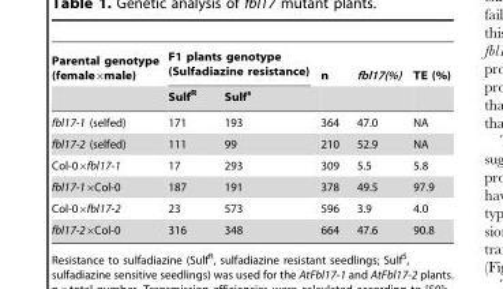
<table><thead><tr><td rowspan="2">Parental genotype (female×male)</td><td colspan="2">F1 plants genotype (Sulfadiazine resistance)</td><td rowspan="2">n</td><td rowspan="2">fbl17(%)</td><td rowspan="2">TE (%)</td></tr><tr><td>Sulf<sup>R</sup></td><td>Sulf<sup>s</sup></td></tr></thead><tbody><tr><td>fbl17-1 (selfed)</td><td>171</td><td>193</td><td>364</td><td>47.0</td><td>NA</td></tr><tr><td>fbl17-2 (selfed)</td><td>111</td><td>99</td><td>210</td><td>52.9</td><td>NA</td></tr><tr><td>Col-0×fbl17-1</td><td>17</td><td>293</td><td>309</td><td>5.5</td><td>5.8</td></tr><tr><td>fbl17-1×Col-0</td><td>187</td><td>191</td><td>378</td><td>49.5</td><td>97.9</td></tr><tr><td>Col-0×fbl17-2</td><td>23</td><td>573</td><td>596</td><td>3.9</td><td>4.0</td></tr><tr><td>fbl17-2×Col-0</td><td>316</td><td>348</td><td>664</td><td>47.6</td><td>90.8</td></tr></tbody></table>